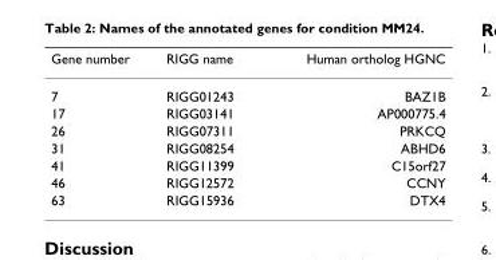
<table><thead><tr><td>Gene number</td><td>RIGG name</td><td>Human ortholog HGNC</td></tr></thead><tbody><tr><td>7</td><td>RIGG01243</td><td>BAZ1B</td></tr><tr><td>17</td><td>RIGG03141</td><td>AP000775.4</td></tr><tr><td>26</td><td>RIGG07311</td><td>PRKCQ</td></tr><tr><td>31</td><td>RIGG08254</td><td>ABHD6</td></tr><tr><td>41</td><td>RIGG11399</td><td>C15orf27</td></tr><tr><td>46</td><td>RIGG12572</td><td>CCNY</td></tr><tr><td>63</td><td>RIGG15936</td><td>DTX4</td></tr></tbody></table>